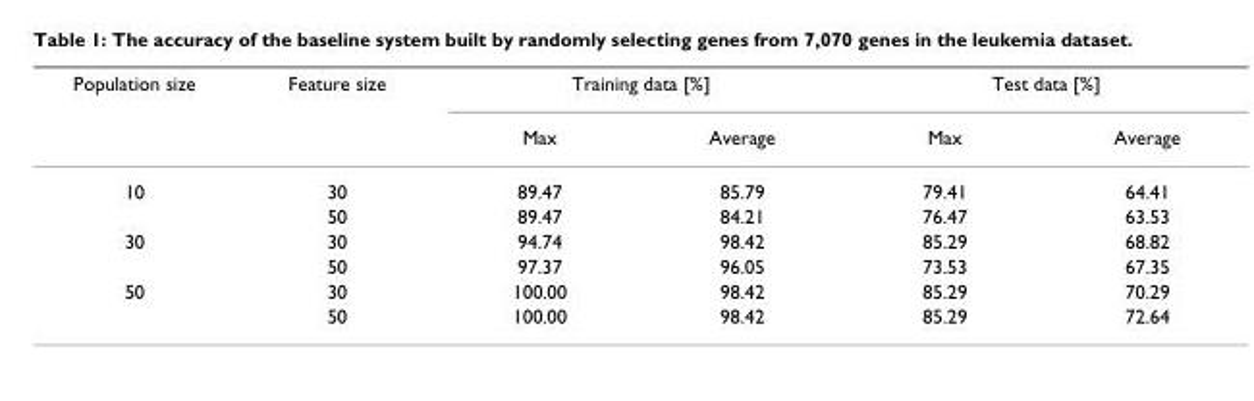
<table><thead><tr><td rowspan="2">Population size</td><td rowspan="2">Feature size</td><td colspan="2">Training data [%]</td><td colspan="2">Test data [%]</td></tr><tr><td>Max</td><td>Average</td><td>Max</td><td>Average</td></tr></thead><tbody><tr><td rowspan="2">10</td><td>30</td><td>89.47</td><td>85.79</td><td>79.41</td><td>64.41</td></tr><tr><td>50</td><td>89.47</td><td>84.21</td><td>76.47</td><td>63.53</td></tr><tr><td rowspan="2">30</td><td>30</td><td>94.74</td><td>98.42</td><td>85.29</td><td>68.82</td></tr><tr><td>50</td><td>97.37</td><td>96.05</td><td>73.53</td><td>67.35</td></tr><tr><td rowspan="2">50</td><td>30</td><td>100.00</td><td>98.42</td><td>85.29</td><td>70.29</td></tr><tr><td>50</td><td>100.00</td><td>98.42</td><td>85.29</td><td>72.64</td></tr></tbody></table>